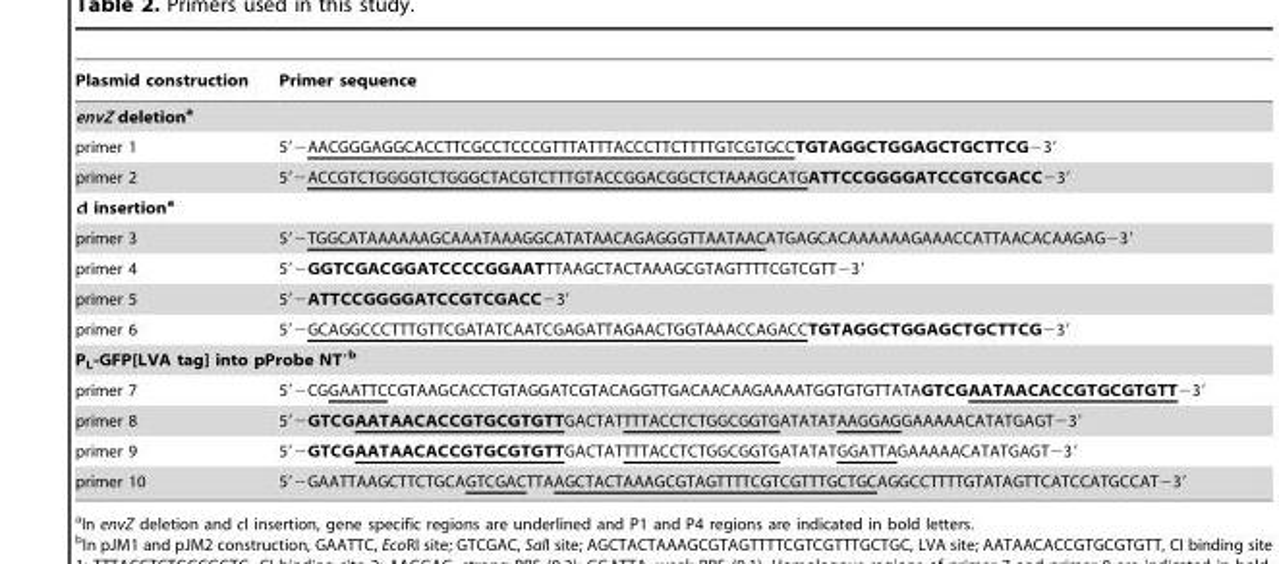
<table><thead><tr><td>Plasmid construction</td><td>Primer sequence</td></tr></thead><tbody><tr><td colspan="2">envZ deletiona</td></tr><tr><td>primer 1</td><td>5′−AACGGGAGGCACCTTCGCCTCCCGTTTATTTACCCTTCTTTTGTCGTGCCTGTAGGCTGGAGCTGCTTCG−3′</td></tr><tr><td>primer 2</td><td>5′−ACCGTCTGGGGTCTGGGCTACGTCTTTGTACCGGACGGCTCTAAAGCATGATTCCGGGGATCCGTCGACC−3′</td></tr><tr><td colspan="2">cI insertiona</td></tr><tr><td>primer 3</td><td>5′−TGGCATAAAAAAGCAAATAAAGGCATATAACAGAGGGTTAATAACATGAGCACAAAAAAGAAACCATTAACACAAGAG−3′</td></tr><tr><td>primer 4</td><td>5′−GGTCGACGGATCCCCGGAATTTAAGCTACTAAAGCGTAGTTTTCGTCGTT−3′</td></tr><tr><td>primer 5</td><td>5′−ATTCCGGGGATCCGTCGACC−3′</td></tr><tr><td>primer 6</td><td>5′−GCAGGCCCTTTGTTCGATATCAATCGAGATTAGAACTGGTAAACCAGACCTGTAGGCTGGAGCTGCTTCG−3′</td></tr><tr><td colspan="2">P<sub>L</sub>-GFP[LVA tag] into pProbe NT′b</td></tr><tr><td>primer 7</td><td>5′−CGGAATTCCGTAAGCACCTGTAGGATCGTACAGGTTGACAACAAGAAAATGGTGTGTTATAGTCGAATAACACCGTGCGTGTT−3′</td></tr><tr><td>primer 8</td><td>5′−GTCGAATAACACCGTGCGTGTTGACTATTTTACCTCTGGCGGTGATATATAAGGAGGAAAAACATATGAGT−3′</td></tr><tr><td>primer 9</td><td>5′−GTCGAATAACACCGTGCGTGTTGACTATTTTACCTCTGGCGGTGATATATGGATTAGAAAAACATATGAGT−3′</td></tr><tr><td>primer 10</td><td>5′−GAATTAAGCTTCTGCAGTCGACTTAAGCTACTAAAGCGTAGTTTTCGTCGTTTGCTGCAGGCCTTTTGTATAGTTCATCCATGCCAT−3′</td></tr></tbody></table>